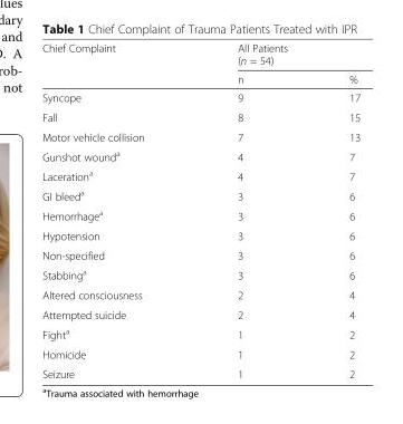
<table><thead><tr><td rowspan="2">Chief Complaint</td><td colspan="2">All Patients (n = 54)</td></tr><tr><td>n</td><td>%</td></tr></thead><tbody><tr><td>Syncope</td><td>9</td><td>17</td></tr><tr><td>Fall</td><td>8</td><td>15</td></tr><tr><td>Motor vehicle collision</td><td>7</td><td>13</td></tr><tr><td>Gunshot wound<sup>a</sup></td><td>4</td><td>7</td></tr><tr><td>Laceration<sup>a</sup></td><td>4</td><td>7</td></tr><tr><td>GI bleed<sup>a</sup></td><td>3</td><td>6</td></tr><tr><td>Hemorrhage<sup>a</sup></td><td>3</td><td>6</td></tr><tr><td>Hypotension</td><td>3</td><td>6</td></tr><tr><td>Non-specified</td><td>3</td><td>6</td></tr><tr><td>Stabbing<sup>a</sup></td><td>3</td><td>6</td></tr><tr><td>Altered consciousness</td><td>2</td><td>4</td></tr><tr><td>Attempted suicide</td><td>2</td><td>4</td></tr><tr><td>Fight<sup>a</sup></td><td>1</td><td>2</td></tr><tr><td>Homicide</td><td>1</td><td>2</td></tr><tr><td>Seizure</td><td>1</td><td>2</td></tr></tbody></table>